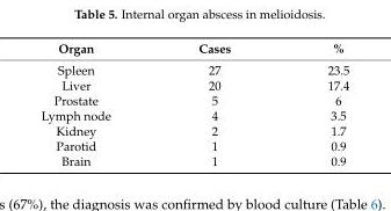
<table><thead><tr><td>Organ</td><td>Cases</td><td>%</td></tr></thead><tbody><tr><td>Spleen</td><td>27</td><td>23.5</td></tr><tr><td>Liver</td><td>20</td><td>17.4</td></tr><tr><td>Prostate</td><td>5</td><td>6</td></tr><tr><td>Lymph node</td><td>4</td><td>3.5</td></tr><tr><td>Kidney</td><td>2</td><td>1.7</td></tr><tr><td>Parotid</td><td>1</td><td>0.9</td></tr><tr><td>Brain</td><td>1</td><td>0.9</td></tr></tbody></table>